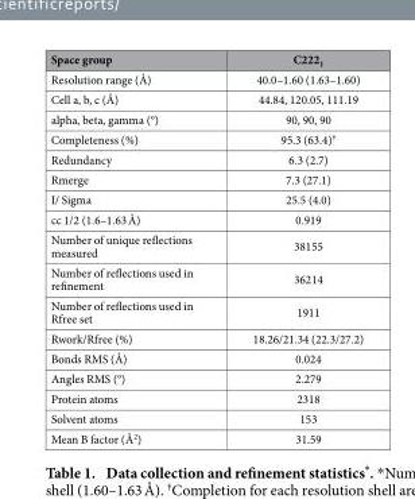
<table><thead><tr><td>Space group</td><td>C222<sub>1</sub></td></tr></thead><tbody><tr><td>Resolution range (Å)</td><td>40.0–1.60 (1.63–1.60)</td></tr><tr><td>Cell a, b, c (Å)</td><td>44.84, 120.05, 111.19</td></tr><tr><td>alpha, beta, gamma (°)</td><td>90, 90, 90</td></tr><tr><td>Completeness (%)</td><td>95.3 (63.4)†</td></tr><tr><td>Redundancy</td><td>6.3 (2.7)</td></tr><tr><td>Rmerge</td><td>7.3 (27.1)</td></tr><tr><td>I/ Sigma</td><td>25.5 (4.0)</td></tr><tr><td>cc 1/2 (1.6–1.63 Å)</td><td>0.919</td></tr><tr><td>Number of unique reflections measured</td><td>38155</td></tr><tr><td>Number of reflections used in refinement</td><td>36214</td></tr><tr><td>Number of reflections used in Rfree set</td><td>1911</td></tr><tr><td>Rwork/Rfree (%)</td><td>18.26/21.34 (22.3/27.2)</td></tr><tr><td>Bonds RMS (Å)</td><td>0.024</td></tr><tr><td>Angles RMS (°)</td><td>2.279</td></tr><tr><td>Protein atoms</td><td>2318</td></tr><tr><td>Solvent atoms</td><td>153</td></tr><tr><td>Mean B factor (Å<sup>2</sup>)</td><td>31.59</td></tr></tbody></table>